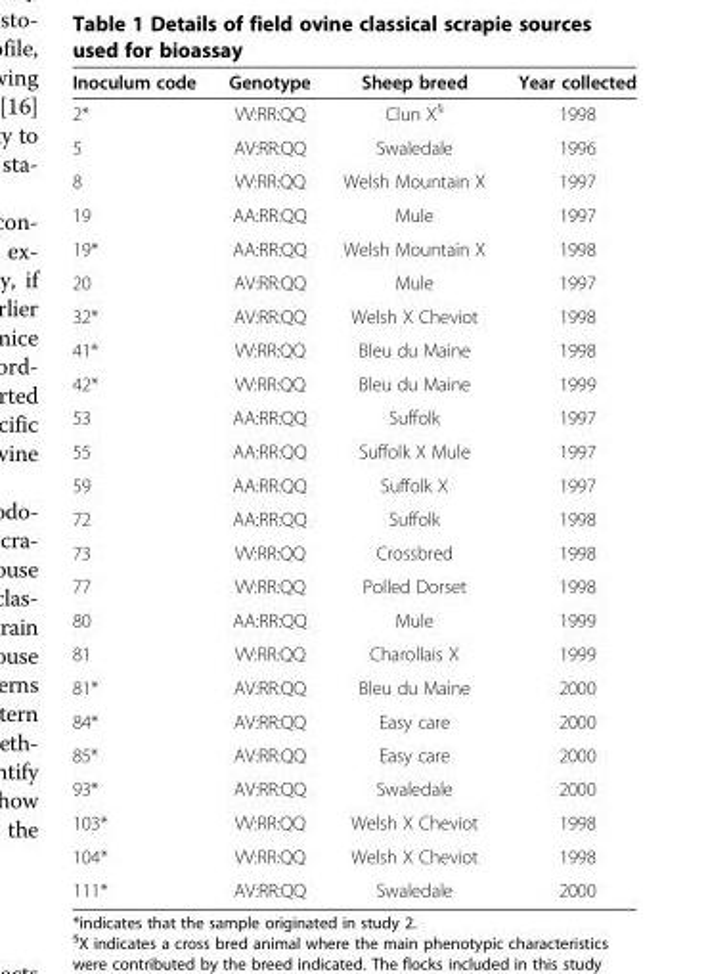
<table><thead><tr><td>Inoculum code</td><td>Genotype</td><td>Sheep breed</td><td>Year collected</td></tr></thead><tbody><tr><td>2*</td><td>VV:RR:QQ</td><td>Clun X<sup>§</sup></td><td>1998</td></tr><tr><td>5</td><td>AV:RR:QQ</td><td>Swaledale</td><td>1996</td></tr><tr><td>8</td><td>VV:RR:QQ</td><td>Welsh Mountain X</td><td>1997</td></tr><tr><td>19</td><td>AA:RR:QQ</td><td>Mule</td><td>1997</td></tr><tr><td>19*</td><td>AA:RR:QQ</td><td>Welsh Mountain X</td><td>1998</td></tr><tr><td>20</td><td>AV:RR:QQ</td><td>Mule</td><td>1997</td></tr><tr><td>32*</td><td>AV:RR:QQ</td><td>Welsh X Cheviot</td><td>1998</td></tr><tr><td>41*</td><td>VV:RR:QQ</td><td>Bleu du Maine</td><td>1998</td></tr><tr><td>42*</td><td>VV:RR:QQ</td><td>Bleu du Maine</td><td>1999</td></tr><tr><td>53</td><td>AA:RR:QQ</td><td>Suffolk</td><td>1997</td></tr><tr><td>55</td><td>AA:RR:QQ</td><td>Suffolk X Mule</td><td>1997</td></tr><tr><td>59</td><td>AA:RR:QQ</td><td>Suffolk X</td><td>1997</td></tr><tr><td>72</td><td>AA:RR:QQ</td><td>Suffolk</td><td>1998</td></tr><tr><td>73</td><td>VV:RR:QQ</td><td>Crossbred</td><td>1998</td></tr><tr><td>77</td><td>VV:RR:QQ</td><td>Polled Dorset</td><td>1998</td></tr><tr><td>80</td><td>AA:RR:QQ</td><td>Mule</td><td>1999</td></tr><tr><td>81</td><td>VV:RR:QQ</td><td>Charollais X</td><td>1999</td></tr><tr><td>81*</td><td>AV:RR:QQ</td><td>Bleu du Maine</td><td>2000</td></tr><tr><td>84*</td><td>AV:RR:QQ</td><td>Easy care</td><td>2000</td></tr><tr><td>85*</td><td>AV:RR:QQ</td><td>Easy care</td><td>2000</td></tr><tr><td>93*</td><td>AV:RR:QQ</td><td>Swaledale</td><td>2000</td></tr><tr><td>103*</td><td>VV:RR:QQ</td><td>Welsh X Cheviot</td><td>1998</td></tr><tr><td>104*</td><td>VV:RR:QQ</td><td>Welsh X Cheviot</td><td>1998</td></tr><tr><td>111*</td><td>AV:RR:QQ</td><td>Swaledale</td><td>2000</td></tr></tbody></table>